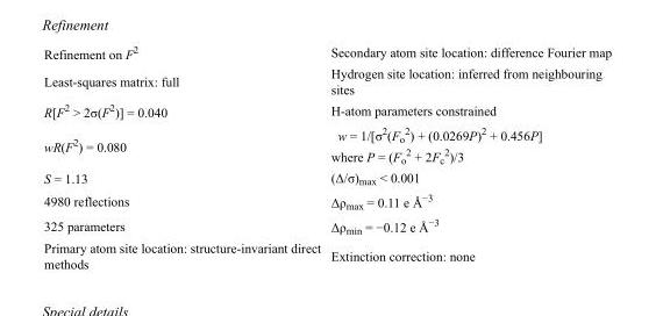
<table><tbody><tr><td>Refinement on F<sup>2</sup></td><td>Secondary atom site location: difference Fourier map</td></tr><tr><td>Least-squares matrix: full</td><td>Hydrogen site location: inferred from neighbouring sites</td></tr><tr><td>R[F<sup>2</sup> &gt; 2σ(F<sup>2</sup>)] = 0.040</td><td>H-atom parameters constrained</td></tr><tr><td>wR(F<sup>2</sup>) = 0.080</td><td>w = 1/[σ<sup>2</sup>(F<sub>o</sub> <sup>2</sup>) + (0.0269P)<sup>2</sup> + 0.456P] where P = (F<sub>o</sub> <sup>2</sup> + 2F<sub>c</sub> <sup>2</sup>)/3</td></tr><tr><td>S = 1.13</td><td>(Δ/σ)<sub>max</sub> &lt; 0.001</td></tr><tr><td>4980 reflections</td><td>Δρ<sub>max</sub> = 0.11 e Å<sup>−3</sup></td></tr><tr><td>325 parameters</td><td>Δρ<sub>min</sub> = −0.12 e Å<sup>−3</sup></td></tr><tr><td>Primary atom site location: structure-invariant direct methods</td><td>Extinction correction: none</td></tr></tbody></table>